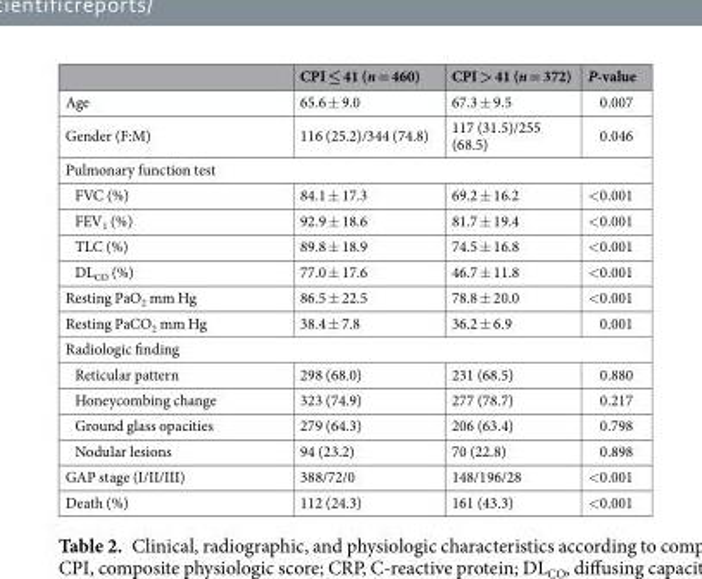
<table><thead><tr><td></td><td>CPI ≤ 41 (n = 460)</td><td>CPI &gt; 41 (n = 372)</td><td>P-value</td></tr></thead><tbody><tr><td>Age</td><td>65.6 ± 9.0</td><td>67.3 ± 9.5</td><td>0.007</td></tr><tr><td>Gender (F:M)</td><td>116 (25.2)/344 (74.8)</td><td>117 (31.5)/255 (68.5)</td><td>0.046</td></tr><tr><td colspan="4">Pulmonary function test</td></tr><tr><td>FVC (%)</td><td>84.1 ± 17.3</td><td>69.2 ± 16.2</td><td>&lt;0.001</td></tr><tr><td>FEV<sub>1</sub> (%)</td><td>92.9 ± 18.6</td><td>81.7 ± 19.4</td><td>&lt;0.001</td></tr><tr><td>TLC (%)</td><td>89.8 ± 18.9</td><td>74.5 ± 16.8</td><td>&lt;0.001</td></tr><tr><td>DL<sub>CO</sub> (%)</td><td>77.0 ± 17.6</td><td>46.7 ± 11.8</td><td>&lt;0.001</td></tr><tr><td>Resting PaO<sub>2</sub> mm Hg</td><td>86.5 ± 22.5</td><td>78.8 ± 20.0</td><td>&lt;0.001</td></tr><tr><td>Resting PaCO<sub>2</sub> mm Hg</td><td>38.4 ± 7.8</td><td>36.2 ± 6.9</td><td>0.001</td></tr><tr><td colspan="4">Radiologic finding</td></tr><tr><td>Reticular pattern</td><td>298 (68.0)</td><td>231 (68.5)</td><td>0.880</td></tr><tr><td>Honeycombing change</td><td>323 (74.9)</td><td>277 (78.7)</td><td>0.217</td></tr><tr><td>Ground glass opacities</td><td>279 (64.3)</td><td>206 (63.4)</td><td>0.798</td></tr><tr><td>Nodular lesions</td><td>94 (23.2)</td><td>70 (22.8)</td><td>0.898</td></tr><tr><td>GAP stage (I/II/III)</td><td>388/72/0</td><td>148/196/28</td><td>&lt;0.001</td></tr><tr><td>Death (%)</td><td>112 (24.3)</td><td>161 (43.3)</td><td>&lt;0.001</td></tr></tbody></table>